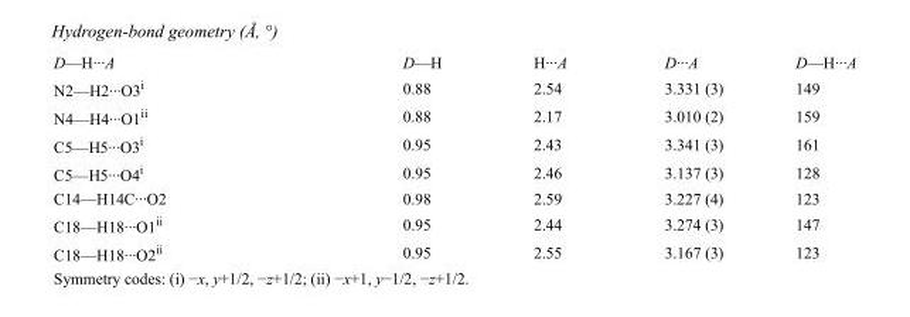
<table><tbody><tr><td>D—H···A</td><td>D—H</td><td>H···A</td><td>D···A</td><td>D—H···A</td></tr><tr><td>N2—H2···O3<sup>i</sup></td><td>0.88</td><td>2.54</td><td>3.331 (3)</td><td>149</td></tr><tr><td>N4—H4···O1<sup>ii</sup></td><td>0.88</td><td>2.17</td><td>3.010 (2)</td><td>159</td></tr><tr><td>C5—H5···O3<sup>i</sup></td><td>0.95</td><td>2.43</td><td>3.341 (3)</td><td>161</td></tr><tr><td>C5—H5···O4<sup>i</sup></td><td>0.95</td><td>2.46</td><td>3.137 (3)</td><td>128</td></tr><tr><td>C14—H14C···O2</td><td>0.98</td><td>2.59</td><td>3.227 (4)</td><td>123</td></tr><tr><td>C18—H18···O1<sup>ii</sup></td><td>0.95</td><td>2.44</td><td>3.274 (3)</td><td>147</td></tr><tr><td>C18—H18···O2<sup>ii</sup></td><td>0.95</td><td>2.55</td><td>3.167 (3)</td><td>123</td></tr></tbody></table>